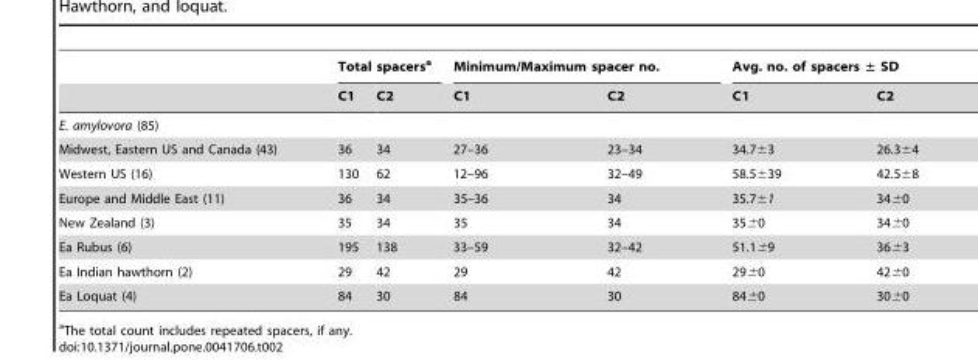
<table><thead><tr><td rowspan="2"></td><td colspan="2">Total spacers<sup>a</sup></td><td colspan="2">Minimum/Maximum spacer no.</td><td colspan="2">Avg. no. of spacers ± SD</td></tr><tr><td>C1</td><td>C2</td><td>C1</td><td>C2</td><td>C1</td><td>C2</td></tr></thead><tbody><tr><td colspan="7">E. amylovora (85)</td></tr><tr><td>Midwest, Eastern US and Canada (43)</td><td>36</td><td>34</td><td>27–36</td><td>23–34</td><td>34.7±3</td><td>26.3±4</td></tr><tr><td>Western US (16)</td><td>130</td><td>62</td><td>12–96</td><td>32–49</td><td>58.5±39</td><td>42.5±8</td></tr><tr><td>Europe and Middle East (11)</td><td>36</td><td>34</td><td>35–36</td><td>34</td><td>35.7±1</td><td>34±0</td></tr><tr><td>New Zealand (3)</td><td>35</td><td>34</td><td>35</td><td>34</td><td>35±0</td><td>34±0</td></tr><tr><td>Ea Rubus (6)</td><td>195</td><td>138</td><td>33–59</td><td>32–42</td><td>51.1±9</td><td>36±3</td></tr><tr><td>Ea Indian hawthorn (2)</td><td>29</td><td>42</td><td>29</td><td>42</td><td>29±0</td><td>42±0</td></tr><tr><td>Ea Loquat (4)</td><td>84</td><td>30</td><td>84</td><td>30</td><td>84±0</td><td>30±0</td></tr></tbody></table>